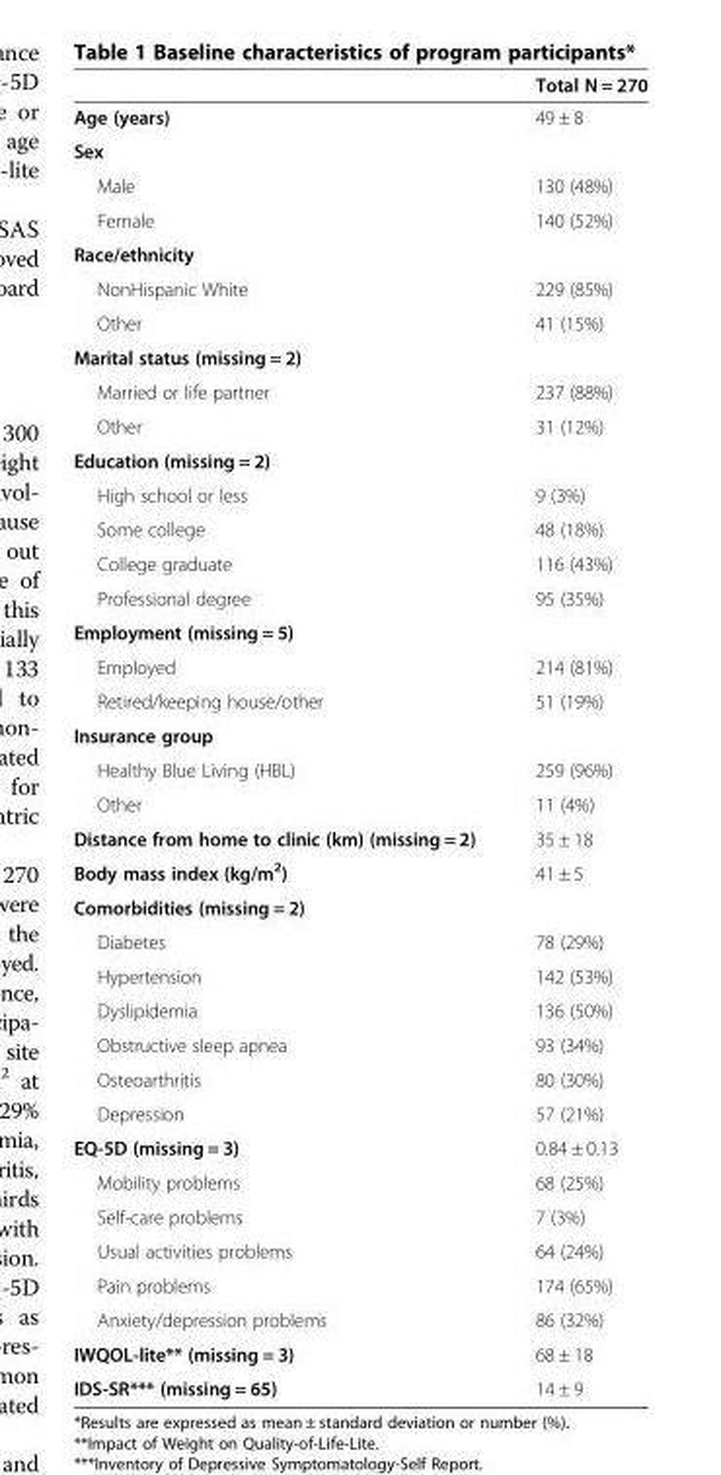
<table><thead><tr><td></td><td>Total N = 270</td></tr></thead><tbody><tr><td>Age (years)</td><td>49 ± 8</td></tr><tr><td colspan="2">Sex</td></tr><tr><td>Male</td><td>130 (48%)</td></tr><tr><td>Female</td><td>140 (52%)</td></tr><tr><td colspan="2">Race/ethnicity</td></tr><tr><td>NonHispanic White</td><td>229 (85%)</td></tr><tr><td>Other</td><td>41 (15%)</td></tr><tr><td colspan="2">Marital status (missing = 2)</td></tr><tr><td>Married or life partner</td><td>237 (88%)</td></tr><tr><td>Other</td><td>31 (12%)</td></tr><tr><td colspan="2">Education (missing = 2)</td></tr><tr><td>High school or less</td><td>9 (3%)</td></tr><tr><td>Some college</td><td>48 (18%)</td></tr><tr><td>College graduate</td><td>116 (43%)</td></tr><tr><td>Professional degree</td><td>95 (35%)</td></tr><tr><td colspan="2">Employment (missing = 5)</td></tr><tr><td>Employed</td><td>214 (81%)</td></tr><tr><td>Retired/keeping house/other</td><td>51 (19%)</td></tr><tr><td colspan="2">Insurance group</td></tr><tr><td>Healthy Blue Living (HBL)</td><td>259 (96%)</td></tr><tr><td>Other</td><td>11 (4%)</td></tr><tr><td>Distance from home to clinic (km) (missing = 2)</td><td>35 ± 18</td></tr><tr><td>Body mass index (kg/m<sup>2</sup>)</td><td>41 ± 5</td></tr><tr><td colspan="2">Comorbidities (missing = 2)</td></tr><tr><td>Diabetes</td><td>78 (29%)</td></tr><tr><td>Hypertension</td><td>142 (53%)</td></tr><tr><td>Dyslipidemia</td><td>136 (50%)</td></tr><tr><td>Obstructive sleep apnea</td><td>93 (34%)</td></tr><tr><td>Osteoarthritis</td><td>80 (30%)</td></tr><tr><td>Depression</td><td>57 (21%)</td></tr><tr><td>EQ-5D (missing = 3)</td><td>0.84 ± 0.13</td></tr><tr><td>Mobility problems</td><td>68 (25%)</td></tr><tr><td>Self-care problems</td><td>7 (3%)</td></tr><tr><td>Usual activities problems</td><td>64 (24%)</td></tr><tr><td>Pain problems</td><td>174 (65%)</td></tr><tr><td>Anxiety/depression problems</td><td>86 (32%)</td></tr><tr><td>IWQOL-lite** (missing = 3)</td><td>68 ± 18</td></tr><tr><td>IDS-SR*** (missing = 65)</td><td>14 ± 9</td></tr></tbody></table>